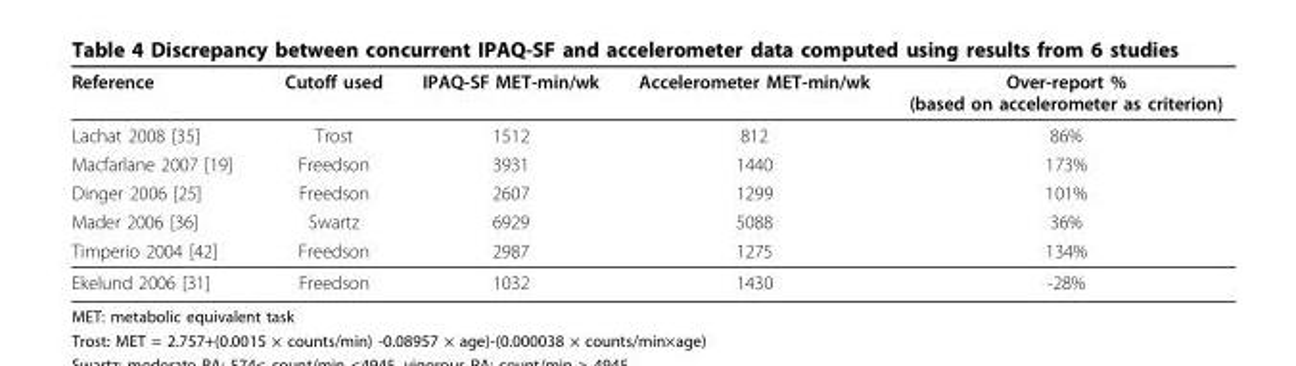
<table><thead><tr><td>Reference</td><td>Cutoff used</td><td>IPAQ-SF MET-min/wk</td><td>Accelerometer MET-min/wk</td><td>Over-report % (based on accelerometer as criterion)</td></tr></thead><tbody><tr><td>Lachat 2008 [35]</td><td>Trost</td><td>1512</td><td>812</td><td>86%</td></tr><tr><td>Macfarlane 2007 [19]</td><td>Freedson</td><td>3931</td><td>1440</td><td>173%</td></tr><tr><td>Dinger 2006 [25]</td><td>Freedson</td><td>2607</td><td>1299</td><td>101%</td></tr><tr><td>Mader 2006 [36]</td><td>Swartz</td><td>6929</td><td>5088</td><td>36%</td></tr><tr><td>Timperio 2004 [42]</td><td>Freedson</td><td>2987</td><td>1275</td><td>134%</td></tr><tr><td>Ekelund 2006 [31]</td><td>Freedson</td><td>1032</td><td>1430</td><td>-28%</td></tr></tbody></table>